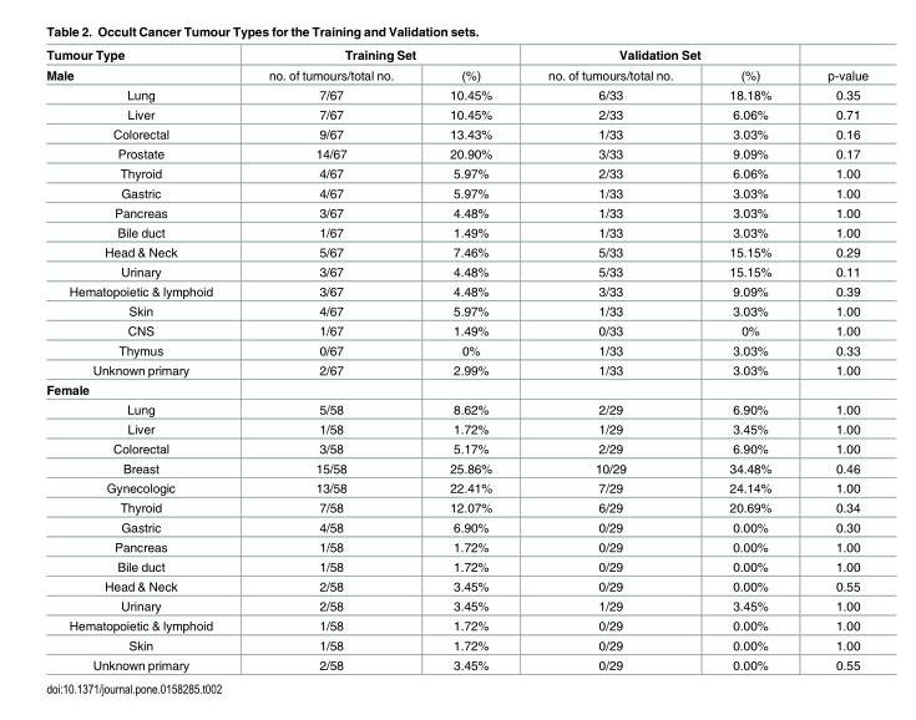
<table><thead><tr><td rowspan="2">Tumour Type Male</td><td colspan="2">Training Set</td><td colspan="2">Validation Set</td><td rowspan="2">p-value</td></tr><tr><td>no. of tumours/total no.</td><td>(%)</td><td>no. of tumours/total no.</td><td>(%)</td></tr></thead><tbody><tr><td>Lung</td><td>7/67</td><td>10.45%</td><td>6/33</td><td>18.18%</td><td>0.35</td></tr><tr><td>Liver</td><td>7/67</td><td>10.45%</td><td>2/33</td><td>6.06%</td><td>0.71</td></tr><tr><td>Colorectal</td><td>9/67</td><td>13.43%</td><td>1/33</td><td>3.03%</td><td>0.16</td></tr><tr><td>Prostate</td><td>14/67</td><td>20.90%</td><td>3/33</td><td>9.09%</td><td>0.17</td></tr><tr><td>Thyroid</td><td>4/67</td><td>5.97%</td><td>2/33</td><td>6.06%</td><td>1.00</td></tr><tr><td>Gastric</td><td>4/67</td><td>5.97%</td><td>1/33</td><td>3.03%</td><td>1.00</td></tr><tr><td>Pancreas</td><td>3/67</td><td>4.48%</td><td>1/33</td><td>3.03%</td><td>1.00</td></tr><tr><td>Bile duct</td><td>1/67</td><td>1.49%</td><td>1/33</td><td>3.03%</td><td>1.00</td></tr><tr><td>Head &amp; Neck</td><td>5/67</td><td>7.46%</td><td>5/33</td><td>15.15%</td><td>0.29</td></tr><tr><td>Urinary</td><td>3/67</td><td>4.48%</td><td>5/33</td><td>15.15%</td><td>0.11</td></tr><tr><td>Hematopoietic &amp; lymphoid</td><td>3/67</td><td>4.48%</td><td>3/33</td><td>9.09%</td><td>0.39</td></tr><tr><td>Skin</td><td>4/67</td><td>5.97%</td><td>1/33</td><td>3.03%</td><td>1.00</td></tr><tr><td>CNS</td><td>1/67</td><td>1.49%</td><td>0/33</td><td>0%</td><td>1.00</td></tr><tr><td>Thymus</td><td>0/67</td><td>0%</td><td>1/33</td><td>3.03%</td><td>0.33</td></tr><tr><td>Unknown primary</td><td>2/67</td><td>2.99%</td><td>1/33</td><td>3.03%</td><td>1.00</td></tr><tr><td colspan="6">Female</td></tr><tr><td>Lung</td><td>5/58</td><td>8.62%</td><td>2/29</td><td>6.90%</td><td>1.00</td></tr><tr><td>Liver</td><td>1/58</td><td>1.72%</td><td>1/29</td><td>3.45%</td><td>1.00</td></tr><tr><td>Colorectal</td><td>3/58</td><td>5.17%</td><td>2/29</td><td>6.90%</td><td>1.00</td></tr><tr><td>Breast</td><td>15/58</td><td>25.86%</td><td>10/29</td><td>34.48%</td><td>0.46</td></tr><tr><td>Gynecologic</td><td>13/58</td><td>22.41%</td><td>7/29</td><td>24.14%</td><td>1.00</td></tr><tr><td>Thyroid</td><td>7/58</td><td>12.07%</td><td>6/29</td><td>20.69%</td><td>0.34</td></tr><tr><td>Gastric</td><td>4/58</td><td>6.90%</td><td>0/29</td><td>0.00%</td><td>0.30</td></tr><tr><td>Pancreas</td><td>1/58</td><td>1.72%</td><td>0/29</td><td>0.00%</td><td>1.00</td></tr><tr><td>Bile duct</td><td>1/58</td><td>1.72%</td><td>0/29</td><td>0.00%</td><td>1.00</td></tr><tr><td>Head &amp; Neck</td><td>2/58</td><td>3.45%</td><td>0/29</td><td>0.00%</td><td>0.55</td></tr><tr><td>Urinary</td><td>2/58</td><td>3.45%</td><td>1/29</td><td>3.45%</td><td>1.00</td></tr><tr><td>Hematopoietic &amp; lymphoid</td><td>1/58</td><td>1.72%</td><td>0/29</td><td>0.00%</td><td>1.00</td></tr><tr><td>Skin</td><td>1/58</td><td>1.72%</td><td>0/29</td><td>0.00%</td><td>1.00</td></tr><tr><td>Unknown primary</td><td>2/58</td><td>3.45%</td><td>0/29</td><td>0.00%</td><td>0.55</td></tr></tbody></table>